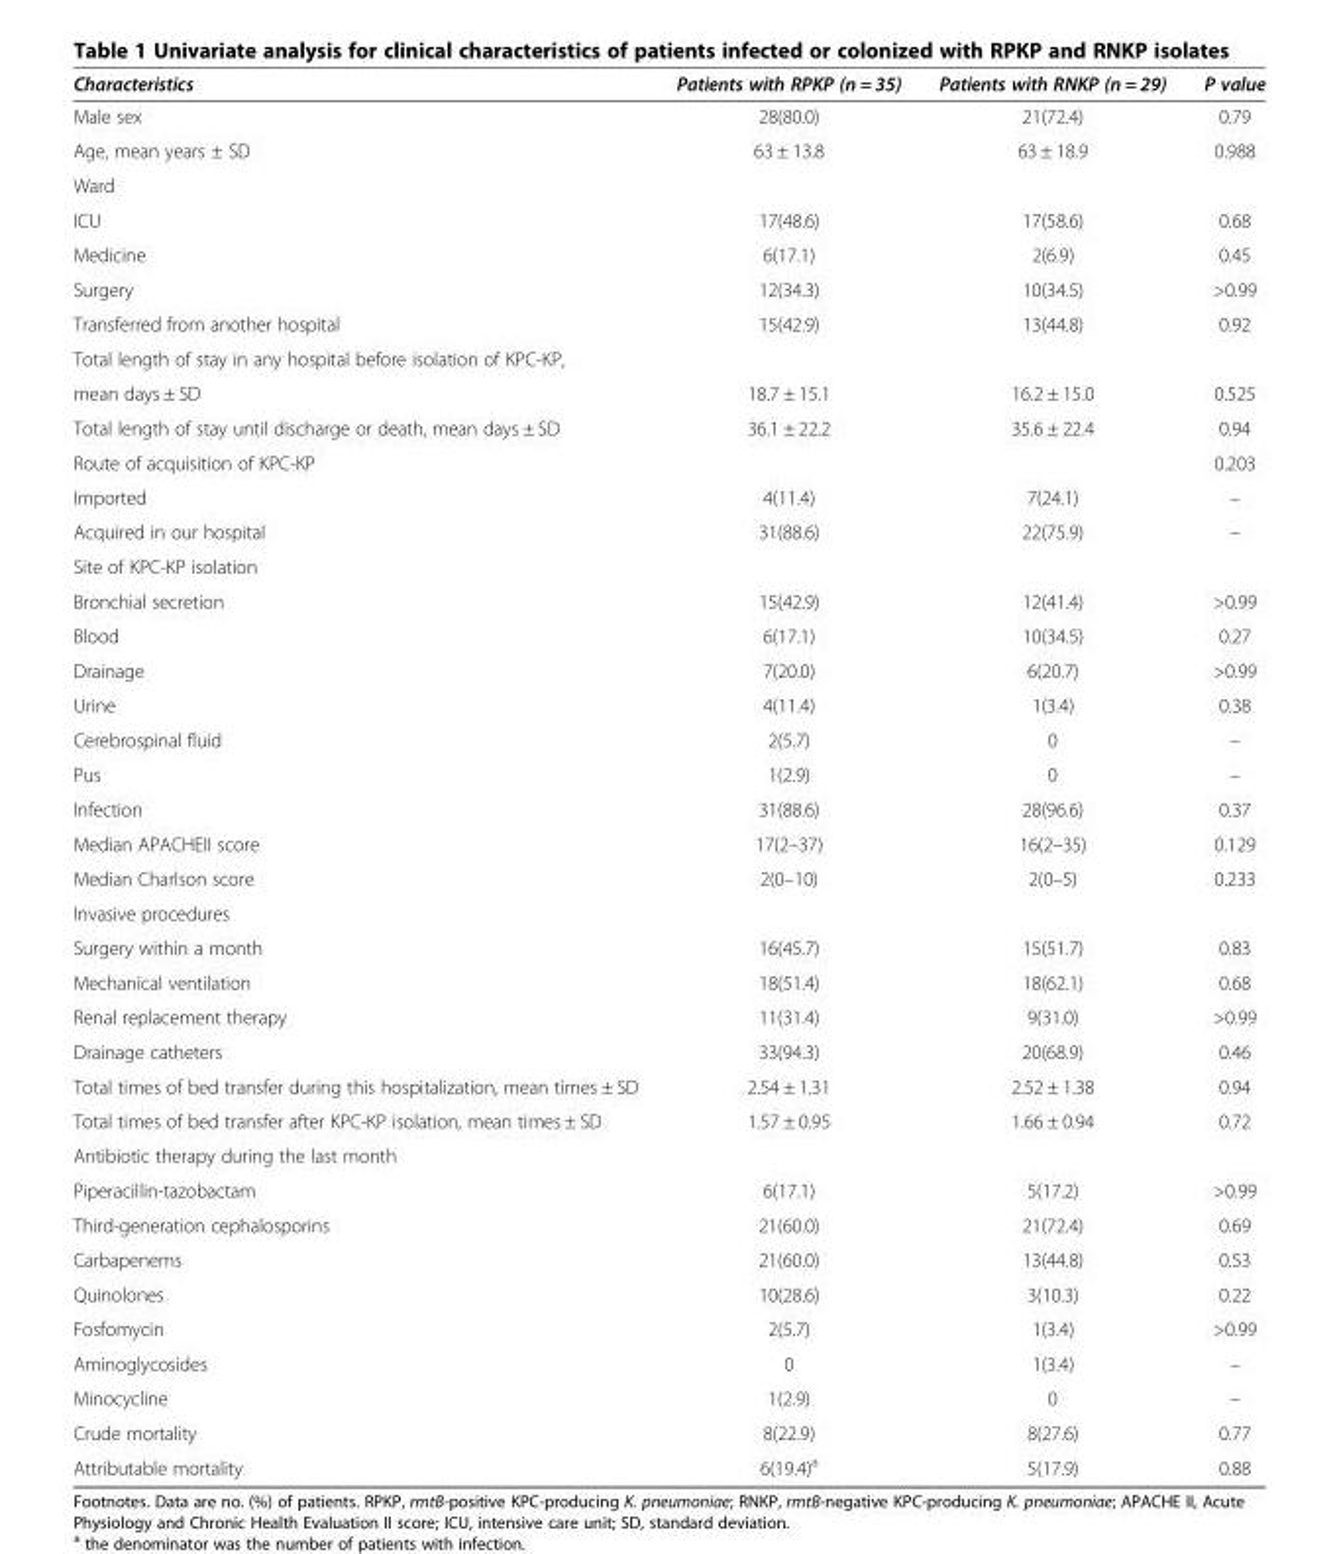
<table><thead><tr><td>Characteristics</td><td>Patients with RPKP (n = 35)</td><td>Patients with RNKP (n = 29)</td><td>P value</td></tr></thead><tbody><tr><td>Male sex</td><td>28(80.0)</td><td>21(72.4)</td><td>0.79</td></tr><tr><td>Age, mean years ± SD</td><td>63 ± 13.8</td><td>63 ± 18.9</td><td>0.988</td></tr><tr><td colspan="4">Ward</td></tr><tr><td>ICU</td><td>17(48.6)</td><td>17(58.6)</td><td>0.68</td></tr><tr><td>Medicine</td><td>6(17.1)</td><td>2(6.9)</td><td>0.45</td></tr><tr><td>Surgery</td><td>12(34.3)</td><td>10(34.5)</td><td>&gt;0.99</td></tr><tr><td>Transferred from another hospital</td><td>15(42.9)</td><td>13(44.8)</td><td>0.92</td></tr><tr><td colspan="4">Total length of stay in any hospital before isolation of KPC-KP,</td></tr><tr><td>mean days ± SD</td><td>18.7 ± 15.1</td><td>16.2 ± 15.0</td><td>0.525</td></tr><tr><td>Total length of stay until discharge or death, mean days ± SD</td><td>36.1 ± 22.2</td><td>35.6 ± 22.4</td><td>0.94</td></tr><tr><td>Route of acquisition of KPC-KP</td><td></td><td></td><td>0.203</td></tr><tr><td>Imported</td><td>4(11.4)</td><td>7(24.1)</td><td>–</td></tr><tr><td>Acquired in our hospital</td><td>31(88.6)</td><td>22(75.9)</td><td>–</td></tr><tr><td colspan="4">Site of KPC-KP isolation</td></tr><tr><td>Bronchial secretion</td><td>15(42.9)</td><td>12(41.4)</td><td>&gt;0.99</td></tr><tr><td>Blood</td><td>6(17.1)</td><td>10(34.5)</td><td>0.27</td></tr><tr><td>Drainage</td><td>7(20.0)</td><td>6(20.7)</td><td>&gt;0.99</td></tr><tr><td>Urine</td><td>4(11.4)</td><td>1(3.4)</td><td>0.38</td></tr><tr><td>Cerebrospinal fluid</td><td>2(5.7)</td><td>0</td><td>–</td></tr><tr><td>Pus</td><td>1(2.9)</td><td>0</td><td>–</td></tr><tr><td>Infection</td><td>31(88.6)</td><td>28(96.6)</td><td>0.37</td></tr><tr><td>Median APACHEII score</td><td>17(2–37)</td><td>16(2–35)</td><td>0.129</td></tr><tr><td>Median Charlson score</td><td>2(0–10)</td><td>2(0–5)</td><td>0.233</td></tr><tr><td colspan="4">Invasive procedures</td></tr><tr><td>Surgery within a month</td><td>16(45.7)</td><td>15(51.7)</td><td>0.83</td></tr><tr><td>Mechanical ventilation</td><td>18(51.4)</td><td>18(62.1)</td><td>0.68</td></tr><tr><td>Renal replacement therapy</td><td>11(31.4)</td><td>9(31.0)</td><td>&gt;0.99</td></tr><tr><td>Drainage catheters</td><td>33(94.3)</td><td>20(68.9)</td><td>0.46</td></tr><tr><td>Total times of bed transfer during this hospitalization, mean times ± SD</td><td>2.54 ± 1.31</td><td>2.52 ± 1.38</td><td>0.94</td></tr><tr><td>Total times of bed transfer after KPC-KP isolation, mean times ± SD</td><td>1.57 ± 0.95</td><td>1.66 ± 0.94</td><td>0.72</td></tr><tr><td colspan="4">Antibiotic therapy during the last month</td></tr><tr><td>Piperacillin-tazobactam</td><td>6(17.1)</td><td>5(17.2)</td><td>&gt;0.99</td></tr><tr><td>Third-generation cephalosporins</td><td>21(60.0)</td><td>21(72.4)</td><td>0.69</td></tr><tr><td>Carbapenems</td><td>21(60.0)</td><td>13(44.8)</td><td>0.53</td></tr><tr><td>Quinolones</td><td>10(28.6)</td><td>3(10.3)</td><td>0.22</td></tr><tr><td>Fosfomycin</td><td>2(5.7)</td><td>1(3.4)</td><td>&gt;0.99</td></tr><tr><td>Aminoglycosides</td><td>0</td><td>1(3.4)</td><td>–</td></tr><tr><td>Minocycline</td><td>1(2.9)</td><td>0</td><td>–</td></tr><tr><td>Crude mortality</td><td>8(22.9)</td><td>8(27.6)</td><td>0.77</td></tr><tr><td>Attributable mortality</td><td>6(19.4)<sup>a</sup></td><td>5(17.9)</td><td>0.88</td></tr></tbody></table>